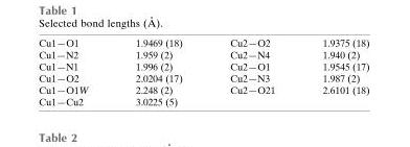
<table><tbody><tr><td>Cu1—O1</td><td>1.9469 (18)</td><td>Cu2—O2</td><td>1.9375 (18)</td></tr><tr><td>Cu1—N2</td><td>1.959 (2)</td><td>Cu2—N4</td><td>1.940 (2)</td></tr><tr><td>Cu1—N1</td><td>1.996 (2)</td><td>Cu2—O1</td><td>1.9545 (17)</td></tr><tr><td>Cu1—O2</td><td>2.0204 (17)</td><td>Cu2—N3</td><td>1.987 (2)</td></tr><tr><td>Cu1—O1W</td><td>2.248 (2)</td><td>Cu2—O21</td><td>2.6101 (18)</td></tr><tr><td>Cu1—Cu2</td><td>3.0225 (5)</td><td></td><td></td></tr></tbody></table>